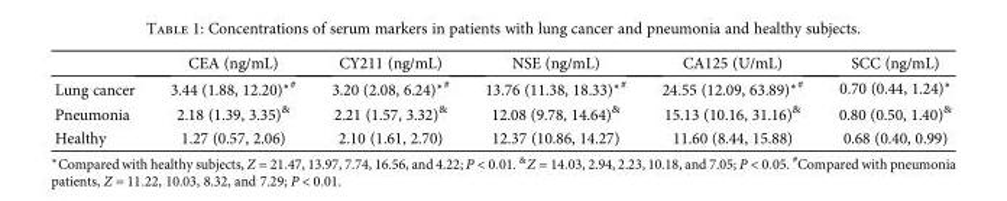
<table><thead><tr><td></td><td>CEA (ng/mL)</td><td>CY211 (ng/mL)</td><td>NSE (ng/mL)</td><td>CA125 (U/mL)</td><td>SCC (ng/mL)</td></tr></thead><tbody><tr><td>Lung cancer</td><td>3.44 (1.88, 12.20)<sup>∗#</sup></td><td>3.20 (2.08, 6.24)<sup>∗#</sup></td><td>13.76 (11.38, 18.33)<sup>∗#</sup></td><td>24.55 (12.09, 63.89)<sup>∗#</sup></td><td>0.70 (0.44, 1.24)∗</td></tr><tr><td>Pneumonia</td><td>2.18 (1.39, 3.35)<sup>&amp;</sup></td><td>2.21 (1.57, 3.32)<sup>&amp;</sup></td><td>12.08 (9.78, 14.64)<sup>&amp;</sup></td><td>15.13 (10.16, 31.16)<sup>&amp;</sup></td><td>0.80 (0.50, 1.40)<sup>&amp;</sup></td></tr><tr><td>Healthy</td><td>1.27 (0.57, 2.06)</td><td>2.10 (1.61, 2.70)</td><td>12.37 (10.86, 14.27)</td><td>11.60 (8.44, 15.88)</td><td>0.68 (0.40, 0.99)</td></tr></tbody></table>